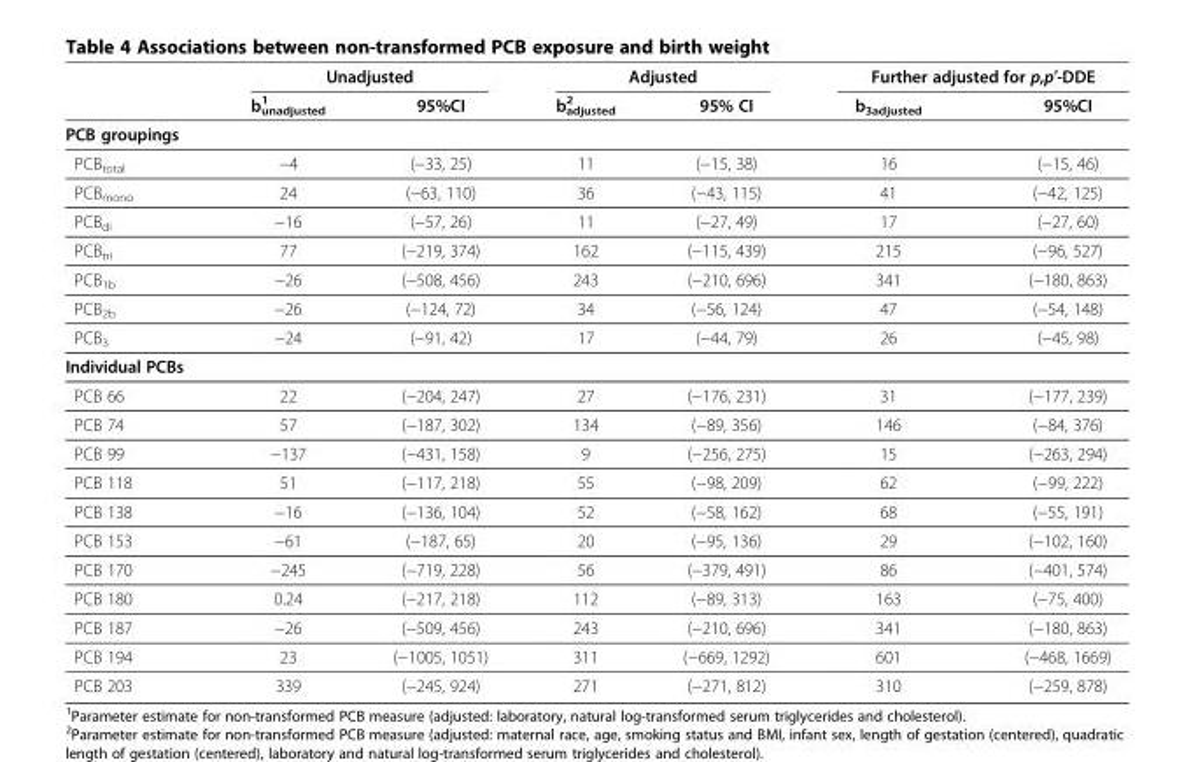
<table><thead><tr><td rowspan="2"></td><td colspan="2">Unadjusted</td><td colspan="2">Adjusted</td><td colspan="2">Further adjusted for p,p′-DDE</td></tr><tr><td>b<sub>unadjusted</sub> <sup>1</sup></td><td>95%CI</td><td>b<sub>adjusted</sub> <sup>2</sup></td><td>95% CI</td><td>b<sub>3adjusted</sub></td><td>95%CI</td></tr></thead><tbody><tr><td colspan="7">PCB groupings</td></tr><tr><td>PCB<sub>total</sub></td><td>−4</td><td>(−33, 25)</td><td>11</td><td>(−15, 38)</td><td>16</td><td>(−15, 46)</td></tr><tr><td>PCB<sub>mono</sub></td><td>24</td><td>(−63, 110)</td><td>36</td><td>(−43, 115)</td><td>41</td><td>(−42, 125)</td></tr><tr><td>PCB<sub>di</sub></td><td>−16</td><td>(−57, 26)</td><td>11</td><td>(−27, 49)</td><td>17</td><td>(−27, 60)</td></tr><tr><td>PCB<sub>tri</sub></td><td>77</td><td>(−219, 374)</td><td>162</td><td>(−115, 439)</td><td>215</td><td>(−96, 527)</td></tr><tr><td>PCB<sub>1b</sub></td><td>−26</td><td>(−508, 456)</td><td>243</td><td>(−210, 696)</td><td>341</td><td>(−180, 863)</td></tr><tr><td>PCB<sub>2b</sub></td><td>−26</td><td>(−124, 72)</td><td>34</td><td>(−56, 124)</td><td>47</td><td>(−54, 148)</td></tr><tr><td>PCB<sub>3</sub></td><td>−24</td><td>(−91, 42)</td><td>17</td><td>(−44, 79)</td><td>26</td><td>(−45, 98)</td></tr><tr><td colspan="7">Individual PCBs</td></tr><tr><td>PCB 66</td><td>22</td><td>(−204, 247)</td><td>27</td><td>(−176, 231)</td><td>31</td><td>(−177, 239)</td></tr><tr><td>PCB 74</td><td>57</td><td>(−187, 302)</td><td>134</td><td>(−89, 356)</td><td>146</td><td>(−84, 376)</td></tr><tr><td>PCB 99</td><td>−137</td><td>(−431, 158)</td><td>9</td><td>(−256, 275)</td><td>15</td><td>(−263, 294)</td></tr><tr><td>PCB 118</td><td>51</td><td>(−117, 218)</td><td>55</td><td>(−98, 209)</td><td>62</td><td>(−99, 222)</td></tr><tr><td>PCB 138</td><td>−16</td><td>(−136, 104)</td><td>52</td><td>(−58, 162)</td><td>68</td><td>(−55, 191)</td></tr><tr><td>PCB 153</td><td>−61</td><td>(−187, 65)</td><td>20</td><td>(−95, 136)</td><td>29</td><td>(−102, 160)</td></tr><tr><td>PCB 170</td><td>−245</td><td>(−719, 228)</td><td>56</td><td>(−379, 491)</td><td>86</td><td>(−401, 574)</td></tr><tr><td>PCB 180</td><td>0.24</td><td>(−217, 218)</td><td>112</td><td>(−89, 313)</td><td>163</td><td>(−75, 400)</td></tr><tr><td>PCB 187</td><td>−26</td><td>(−509, 456)</td><td>243</td><td>(−210, 696)</td><td>341</td><td>(−180, 863)</td></tr><tr><td>PCB 194</td><td>23</td><td>(−1005, 1051)</td><td>311</td><td>(−669, 1292)</td><td>601</td><td>(−468, 1669)</td></tr><tr><td>PCB 203</td><td>339</td><td>(−245, 924)</td><td>271</td><td>(−271, 812)</td><td>310</td><td>(−259, 878)</td></tr></tbody></table>